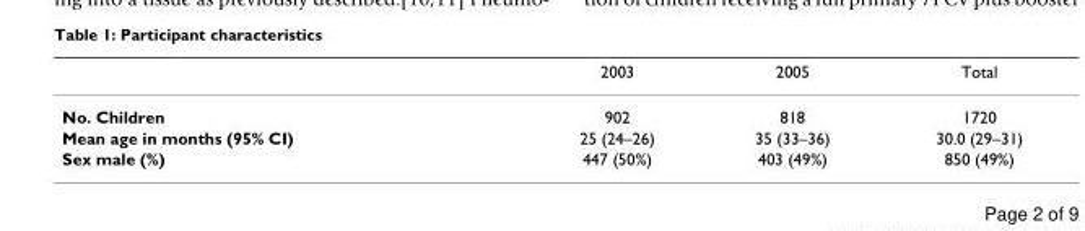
<table><thead><tr><td></td><td>2003</td><td>2005</td><td>Total</td></tr></thead><tbody><tr><td>No. Children</td><td>902</td><td>818</td><td>1720</td></tr><tr><td>Mean age in months (95% CI)</td><td>25 (24–26)</td><td>35 (33–36)</td><td>30.0 (29–31)</td></tr><tr><td>Sex male (%)</td><td>447 (50%)</td><td>403 (49%)</td><td>850 (49%)</td></tr></tbody></table>